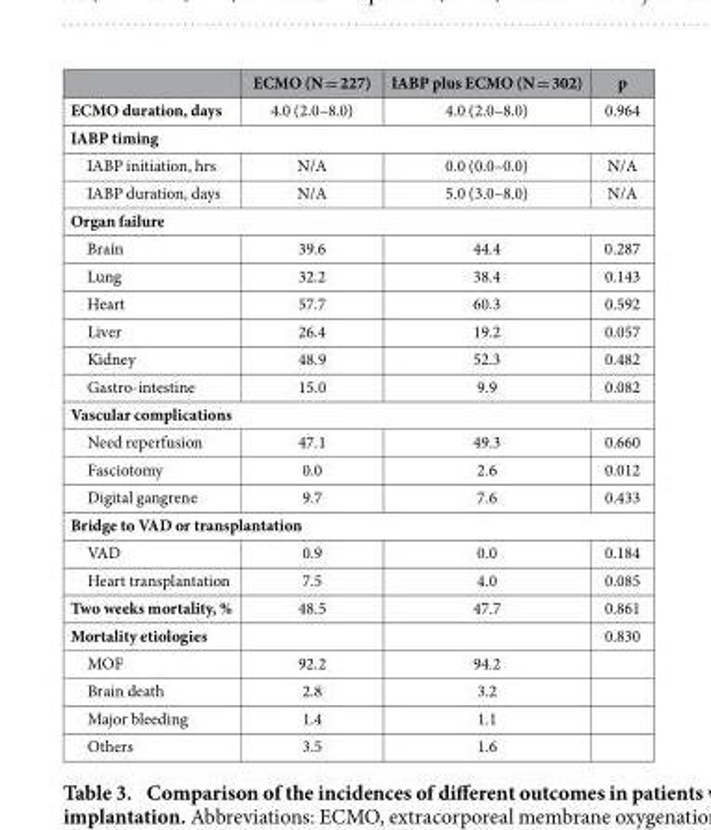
<table><thead><tr><td></td><td>ECMO (N = 227)</td><td>IABP plus ECMO (N = 302)</td><td>p</td></tr></thead><tbody><tr><td>ECMO duration, days</td><td>4.0 (2.0–8.0)</td><td>4.0 (2.0–8.0)</td><td>0.964</td></tr><tr><td colspan="4">IABP timing</td></tr><tr><td>IABP initiation, hrs</td><td>N/A</td><td>0.0 (0.0–0.0)</td><td>N/A</td></tr><tr><td>IABP duration, days</td><td>N/A</td><td>5.0 (3.0–8.0)</td><td>N/A</td></tr><tr><td colspan="4">Organ failure</td></tr><tr><td>Brain</td><td>39.6</td><td>44.4</td><td>0.287</td></tr><tr><td>Lung</td><td>32.2</td><td>38.4</td><td>0.143</td></tr><tr><td>Heart</td><td>57.7</td><td>60.3</td><td>0.592</td></tr><tr><td>Liver</td><td>26.4</td><td>19.2</td><td>0.057</td></tr><tr><td>Kidney</td><td>48.9</td><td>52.3</td><td>0.482</td></tr><tr><td>Gastro-intestine</td><td>15.0</td><td>9.9</td><td>0.082</td></tr><tr><td colspan="4">Vascular complications</td></tr><tr><td>Need reperfusion</td><td>47.1</td><td>49.3</td><td>0.660</td></tr><tr><td>Fasciotomy</td><td>0.0</td><td>2.6</td><td>0.012</td></tr><tr><td>Digital gangrene</td><td>9.7</td><td>7.6</td><td>0.433</td></tr><tr><td colspan="4">Bridge to VAD or transplantation</td></tr><tr><td>VAD</td><td>0.9</td><td>0.0</td><td>0.184</td></tr><tr><td>Heart transplantation</td><td>7.5</td><td>4.0</td><td>0.085</td></tr><tr><td>Two weeks mortality, %</td><td>48.5</td><td>47.7</td><td>0.861</td></tr><tr><td>Mortality etiologies</td><td></td><td></td><td>0.830</td></tr><tr><td>MOF</td><td>92.2</td><td>94.2</td><td></td></tr><tr><td>Brain death</td><td>2.8</td><td>3.2</td><td></td></tr><tr><td>Major bleeding</td><td>1.4</td><td>1.1</td><td></td></tr><tr><td>Others</td><td>3.5</td><td>1.6</td><td></td></tr></tbody></table>